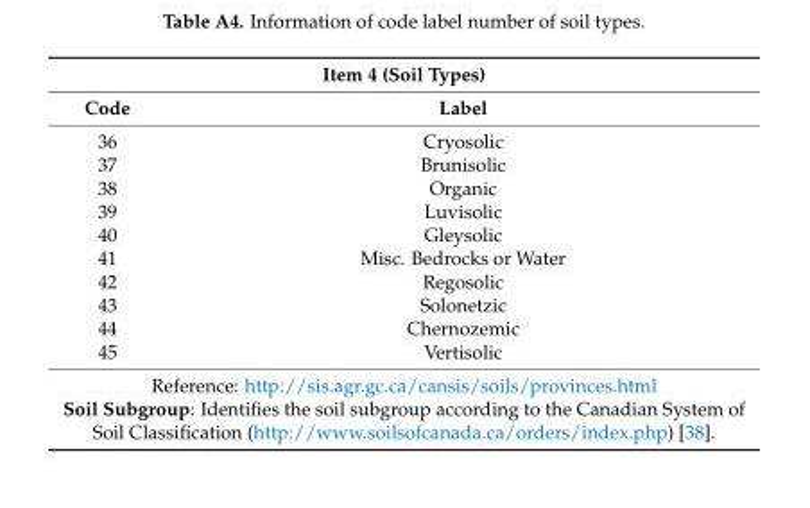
<table><thead><tr><td colspan="2">Item 4 (Soil Types)</td></tr><tr><td>Code</td><td>Label</td></tr></thead><tbody><tr><td>36</td><td>Cryosolic</td></tr><tr><td>37</td><td>Brunisolic</td></tr><tr><td>38</td><td>Organic</td></tr><tr><td>39</td><td>Luvisolic</td></tr><tr><td>40</td><td>Gleysolic</td></tr><tr><td>41</td><td>Misc. Bedrocks or Water</td></tr><tr><td>42</td><td>Regosolic</td></tr><tr><td>43</td><td>Solonetzic</td></tr><tr><td>44</td><td>Chernozemic</td></tr><tr><td>45</td><td>Vertisolic</td></tr><tr><td colspan="2">Reference: http://sis.agr.gc.ca/cansis/soils/provinces.html Soil Subgroup: Identifies the soil subgroup according to the Canadian System of Soil Classification (http://www.soilsofcanada.ca/orders/index.php) [38].</td></tr></tbody></table>